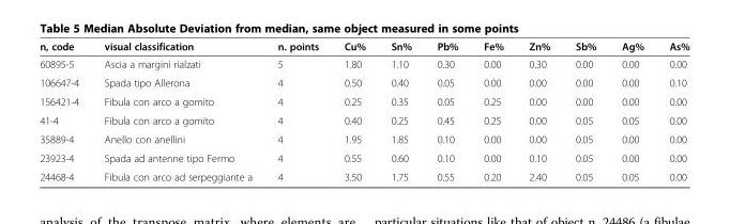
<table><thead><tr><td>n, code</td><td>visual classification</td><td>n. points</td><td>Cu%</td><td>Sn%</td><td>Pb%</td><td>Fe%</td><td>Zn%</td><td>Sb%</td><td>Ag%</td><td>As%</td></tr></thead><tbody><tr><td>60895-5</td><td>Ascia a margini rialzati</td><td>5</td><td>1.80</td><td>1.10</td><td>0.30</td><td>0.00</td><td>0.30</td><td>0.00</td><td>0.00</td><td>0.00</td></tr><tr><td>106647-4</td><td>Spada tipo Allerona</td><td>4</td><td>0.50</td><td>0.40</td><td>0.05</td><td>0.00</td><td>0.00</td><td>0.00</td><td>0.00</td><td>0.10</td></tr><tr><td>156421-4</td><td>Fibula con arco a gomito</td><td>4</td><td>0.25</td><td>0.35</td><td>0.05</td><td>0.25</td><td>0.00</td><td>0.00</td><td>0.00</td><td>0.00</td></tr><tr><td>41-4</td><td>Fibula con arco a gomito</td><td>4</td><td>0.40</td><td>0.25</td><td>0.45</td><td>0.25</td><td>0.00</td><td>0.05</td><td>0.05</td><td>0.00</td></tr><tr><td>35889-4</td><td>Anello con anellini</td><td>4</td><td>1.95</td><td>1.85</td><td>0.10</td><td>0.00</td><td>0.00</td><td>0.05</td><td>0.00</td><td>0.00</td></tr><tr><td>23923-4</td><td>Spada ad antenne tipo Fermo</td><td>4</td><td>0.55</td><td>0.60</td><td>0.10</td><td>0.00</td><td>0.10</td><td>0.05</td><td>0.00</td><td>0.00</td></tr><tr><td>24468-4</td><td>Fibula con arco ad serpeggiante a</td><td>4</td><td>3.50</td><td>1.75</td><td>0.55</td><td>0.20</td><td>2.40</td><td>0.05</td><td>0.05</td><td>0.00</td></tr></tbody></table>